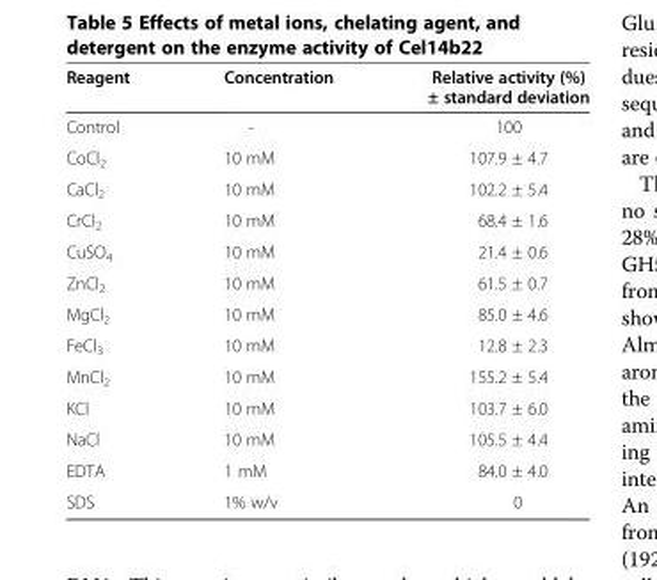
<table><thead><tr><td>Reagent</td><td>Concentration</td><td>Relative activity (%) ± standard deviation</td></tr></thead><tbody><tr><td>Control</td><td>-</td><td>100</td></tr><tr><td>CoCl<sub>2</sub></td><td>10 mM</td><td>107.9 ± 4.7</td></tr><tr><td>CaCl<sub>2</sub></td><td>10 mM</td><td>102.2 ± 5.4</td></tr><tr><td>CrCl<sub>2</sub></td><td>10 mM</td><td>68.4 ± 1.6</td></tr><tr><td>CuSO<sub>4</sub></td><td>10 mM</td><td>21.4 ± 0.6</td></tr><tr><td>ZnCl<sub>2</sub></td><td>10 mM</td><td>61.5 ± 0.7</td></tr><tr><td>MgCl<sub>2</sub></td><td>10 mM</td><td>85.0 ± 4.6</td></tr><tr><td>FeCl<sub>3</sub></td><td>10 mM</td><td>12.8 ± 2.3</td></tr><tr><td>MnCl<sub>2</sub></td><td>10 mM</td><td>155.2 ± 5.4</td></tr><tr><td>KCl</td><td>10 mM</td><td>103.7 ± 6.0</td></tr><tr><td>NaCl</td><td>10 mM</td><td>105.5 ± 4.4</td></tr><tr><td>EDTA</td><td>1 mM</td><td>84.0 ± 4.0</td></tr><tr><td>SDS</td><td>1% w/v</td><td>0</td></tr></tbody></table>